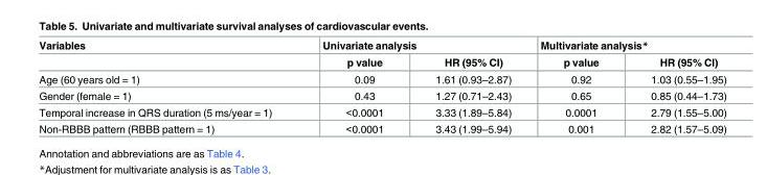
<table><thead><tr><td rowspan="2">Variables</td><td colspan="2">Univariate analysis</td><td colspan="2">Multivariate analysis*</td></tr><tr><td>p value</td><td>HR (95% CI)</td><td>p value</td><td>HR (95% CI)</td></tr></thead><tbody><tr><td>Age (60 years old = 1)</td><td>0.09</td><td>1.61 (0.93–2.87)</td><td>0.92</td><td>1.03 (0.55–1.95)</td></tr><tr><td>Gender (female = 1)</td><td>0.43</td><td>1.27 (0.71–2.43)</td><td>0.65</td><td>0.85 (0.44–1.73)</td></tr><tr><td>Temporal increase in QRS duration (5 ms/year = 1)</td><td>&lt;0.0001</td><td>3.33 (1.89–5.84)</td><td>0.0001</td><td>2.79 (1.55–5.00)</td></tr><tr><td>Non-RBBB pattern (RBBB pattern = 1)</td><td>&lt;0.0001</td><td>3.43 (1.99–5.94)</td><td>0.001</td><td>2.82 (1.57–5.09)</td></tr></tbody></table>